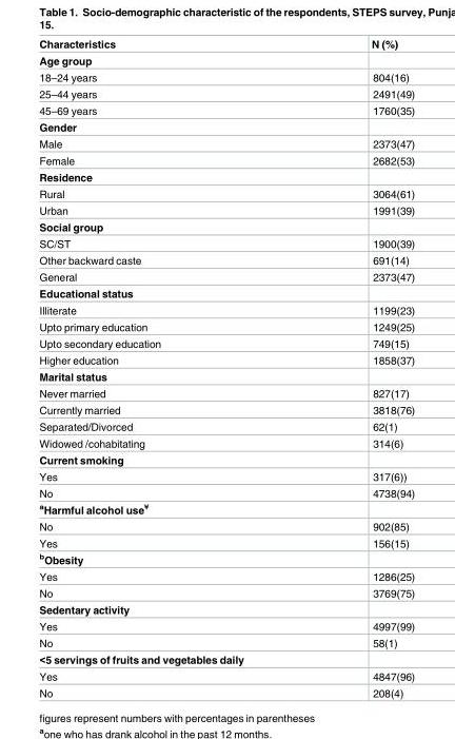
<table><thead><tr><td>Characteristics</td><td>N (%)</td></tr></thead><tbody><tr><td colspan="2">Age group</td></tr><tr><td>18–24 years</td><td>804(16)</td></tr><tr><td>25–44 years</td><td>2491(49)</td></tr><tr><td>45–69 years</td><td>1760(35)</td></tr><tr><td colspan="2">Gender</td></tr><tr><td>Male</td><td>2373(47)</td></tr><tr><td>Female</td><td>2682(53)</td></tr><tr><td colspan="2">Residence</td></tr><tr><td>Rural</td><td>3064(61)</td></tr><tr><td>Urban</td><td>1991(39)</td></tr><tr><td colspan="2">Social group</td></tr><tr><td>SC/ST</td><td>1900(39)</td></tr><tr><td>Other backward caste</td><td>691(14)</td></tr><tr><td>General</td><td>2373(47)</td></tr><tr><td colspan="2">Educational status</td></tr><tr><td>Illiterate</td><td>1199(23)</td></tr><tr><td>Upto primary education</td><td>1249(25)</td></tr><tr><td>Upto secondary education</td><td>749(15)</td></tr><tr><td>Higher education</td><td>1858(37)</td></tr><tr><td colspan="2">Marital status</td></tr><tr><td>Never married</td><td>827(17)</td></tr><tr><td>Currently married</td><td>3818(76)</td></tr><tr><td>Separated/Divorced</td><td>62(1)</td></tr><tr><td>Widowed /cohabitating</td><td>314(6)</td></tr><tr><td colspan="2">Current smoking</td></tr><tr><td>Yes</td><td>317(6))</td></tr><tr><td>No</td><td>4738(94)</td></tr><tr><td colspan="2"><sup>a</sup>Harmful alcohol use<sup>¥</sup></td></tr><tr><td>No</td><td>902(85)</td></tr><tr><td>Yes</td><td>156(15)</td></tr><tr><td colspan="2"><sup>b</sup>Obesity</td></tr><tr><td>Yes</td><td>1286(25)</td></tr><tr><td>No</td><td>3769(75)</td></tr><tr><td colspan="2">Sedentary activity</td></tr><tr><td>Yes</td><td>4997(99)</td></tr><tr><td>No</td><td>58(1)</td></tr><tr><td colspan="2">&lt;5 servings of fruits and vegetables daily</td></tr><tr><td>Yes</td><td>4847(96)</td></tr><tr><td>No</td><td>208(4)</td></tr></tbody></table>